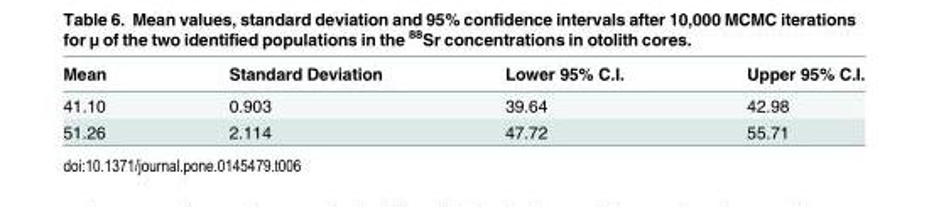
<table><thead><tr><td>Mean</td><td>Standard Deviation</td><td>Lower 95% C.I.</td><td>Upper 95% C.I.</td></tr></thead><tbody><tr><td>41.10</td><td>0.903</td><td>39.64</td><td>42.98</td></tr><tr><td>51.26</td><td>2.114</td><td>47.72</td><td>55.71</td></tr></tbody></table>